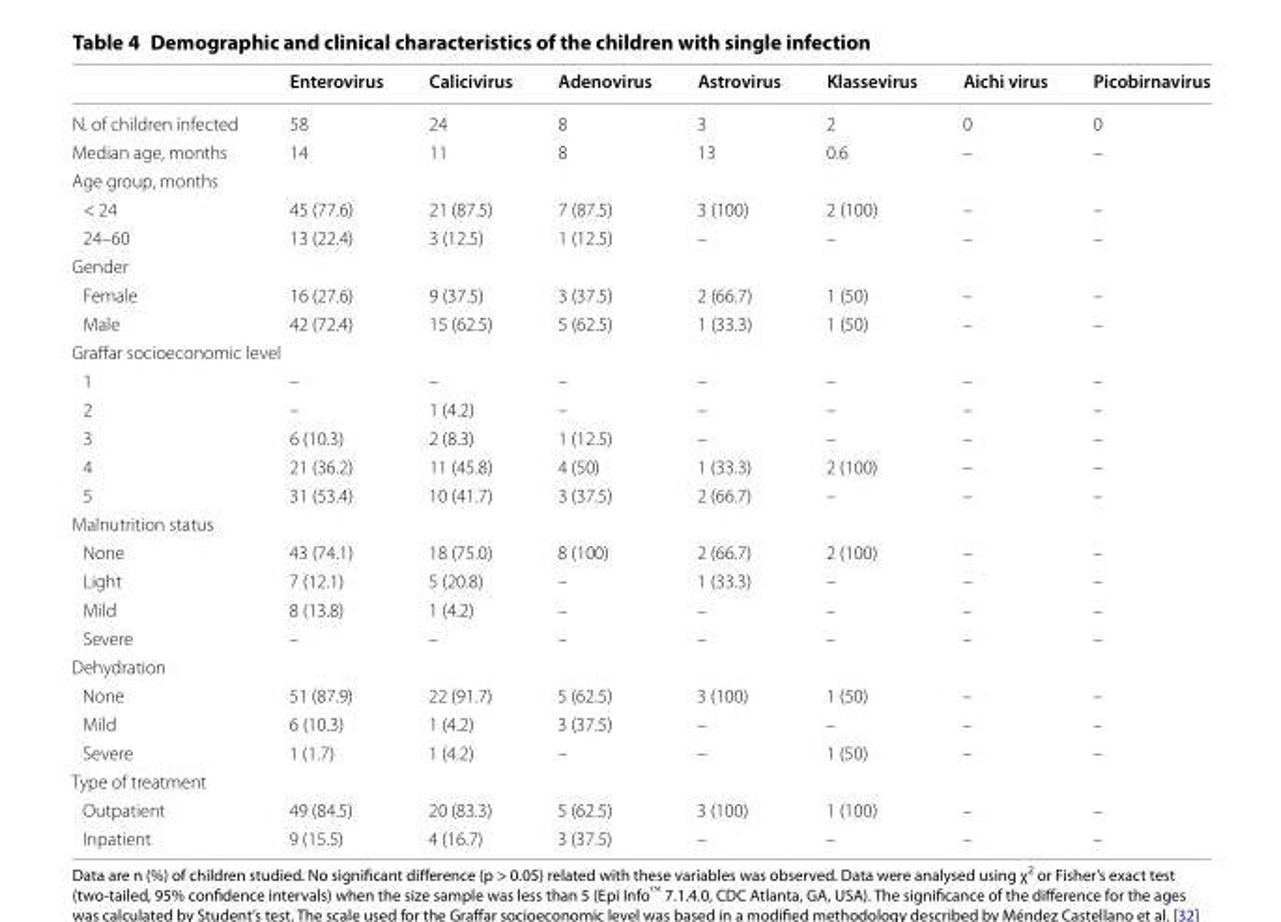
<table><thead><tr><td></td><td>Enterovirus</td><td>Calicivirus</td><td>Adenovirus</td><td>Astrovirus</td><td>Klassevirus</td><td>Aichi virus</td><td>Picobirnavirus</td></tr></thead><tbody><tr><td>N. of children infected</td><td>58</td><td>24</td><td>8</td><td>3</td><td>2</td><td>0</td><td>0</td></tr><tr><td>Median age, months</td><td>14</td><td>11</td><td>8</td><td>13</td><td>0.6</td><td>–</td><td>–</td></tr><tr><td colspan="8">Age group, months</td></tr><tr><td>&lt; 24</td><td>45 (77.6)</td><td>21 (87.5)</td><td>7 (87.5)</td><td>3 (100)</td><td>2 (100)</td><td>–</td><td>–</td></tr><tr><td>24–60</td><td>13 (22.4)</td><td>3 (12.5)</td><td>1 (12.5)</td><td>–</td><td>–</td><td>–</td><td>–</td></tr><tr><td colspan="8">Gender</td></tr><tr><td>Female</td><td>16 (27.6)</td><td>9 (37.5)</td><td>3 (37.5)</td><td>2 (66.7)</td><td>1 (50)</td><td>–</td><td>–</td></tr><tr><td>Male</td><td>42 (72.4)</td><td>15 (62.5)</td><td>5 (62.5)</td><td>1 (33.3)</td><td>1 (50)</td><td>–</td><td>–</td></tr><tr><td colspan="8">Graffar socioeconomic level</td></tr><tr><td>1</td><td>–</td><td>–</td><td>–</td><td>–</td><td>–</td><td>–</td><td>–</td></tr><tr><td>2</td><td>–</td><td>1 (4.2)</td><td>–</td><td>–</td><td>–</td><td>–</td><td>–</td></tr><tr><td>3</td><td>6 (10.3)</td><td>2 (8.3)</td><td>1 (12.5)</td><td>–</td><td>–</td><td>–</td><td>–</td></tr><tr><td>4</td><td>21 (36.2)</td><td>11 (45.8)</td><td>4 (50)</td><td>1 (33.3)</td><td>2 (100)</td><td>–</td><td>–</td></tr><tr><td>5</td><td>31 (53.4)</td><td>10 (41.7)</td><td>3 (37.5)</td><td>2 (66.7)</td><td>–</td><td>–</td><td>–</td></tr><tr><td colspan="8">Malnutrition status</td></tr><tr><td>None</td><td>43 (74.1)</td><td>18 (75.0)</td><td>8 (100)</td><td>2 (66.7)</td><td>2 (100)</td><td>–</td><td>–</td></tr><tr><td>Light</td><td>7 (12.1)</td><td>5 (20.8)</td><td>–</td><td>1 (33.3)</td><td>–</td><td>–</td><td>–</td></tr><tr><td>Mild</td><td>8 (13.8)</td><td>1 (4.2)</td><td>–</td><td>–</td><td>–</td><td>–</td><td>–</td></tr><tr><td>Severe</td><td>–</td><td>–</td><td>–</td><td>–</td><td>–</td><td>–</td><td>–</td></tr><tr><td colspan="8">Dehydration</td></tr><tr><td>None</td><td>51 (87.9)</td><td>22 (91.7)</td><td>5 (62.5)</td><td>3 (100)</td><td>1 (50)</td><td>–</td><td>–</td></tr><tr><td>Mild</td><td>6 (10.3)</td><td>1 (4.2)</td><td>3 (37.5)</td><td>–</td><td>–</td><td>–</td><td>–</td></tr><tr><td>Severe</td><td>1 (1.7)</td><td>1 (4.2)</td><td>–</td><td>–</td><td>1 (50)</td><td>–</td><td>–</td></tr><tr><td colspan="8">Type of treatment</td></tr><tr><td>Outpatient</td><td>49 (84.5)</td><td>20 (83.3)</td><td>5 (62.5)</td><td>3 (100)</td><td>1 (100)</td><td>–</td><td>–</td></tr><tr><td>Inpatient</td><td>9 (15.5)</td><td>4 (16.7)</td><td>3 (37.5)</td><td>–</td><td>–</td><td>–</td><td>–</td></tr></tbody></table>